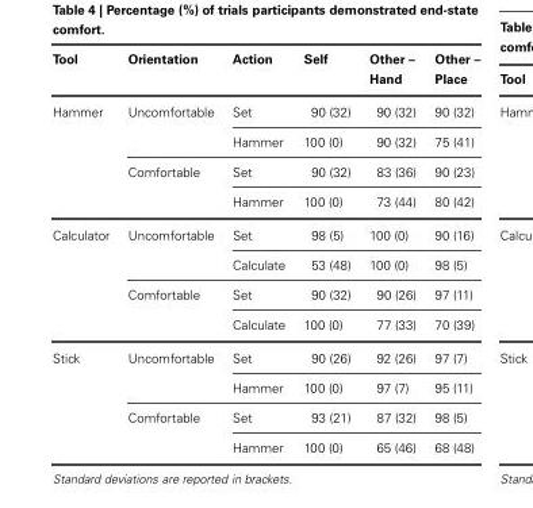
<table><thead><tr><td>Tool</td><td>Orientation</td><td>Action</td><td>Self</td><td>Other – Hand</td><td>Other – Place</td></tr></thead><tbody><tr><td rowspan="4">Hammer</td><td>Uncomfortable</td><td>Set</td><td>90 (32)</td><td>90 (32)</td><td>90 (32)</td></tr><tr><td></td><td>Hammer</td><td>100 (0)</td><td>90 (32)</td><td>75 (41)</td></tr><tr><td>Comfortable</td><td>Set</td><td>90 (32)</td><td>83 (36)</td><td>90 (23)</td></tr><tr><td></td><td>Hammer</td><td>100 (0)</td><td>73 (44)</td><td>80 (42)</td></tr><tr><td rowspan="4">Calculator</td><td>Uncomfortable</td><td>Set</td><td>98 (5)</td><td>100 (0)</td><td>90 (16)</td></tr><tr><td></td><td>Calculate</td><td>53 (48)</td><td>100 (0)</td><td>98 (5)</td></tr><tr><td>Comfortable</td><td>Set</td><td>90 (32)</td><td>90 (26)</td><td>97 (11)</td></tr><tr><td></td><td>Calculate</td><td>100 (0)</td><td>77 (33)</td><td>70 (39)</td></tr><tr><td rowspan="4">Stick</td><td>Uncomfortable</td><td>Set</td><td>90 (26)</td><td>92 (26)</td><td>97 (7)</td></tr><tr><td></td><td>Hammer</td><td>100 (0)</td><td>97 (7)</td><td>95 (11)</td></tr><tr><td>Comfortable</td><td>Set</td><td>93 (21)</td><td>87 (32)</td><td>98 (5)</td></tr><tr><td></td><td>Hammer</td><td>100 (0)</td><td>65 (46)</td><td>68 (48)</td></tr></tbody></table>